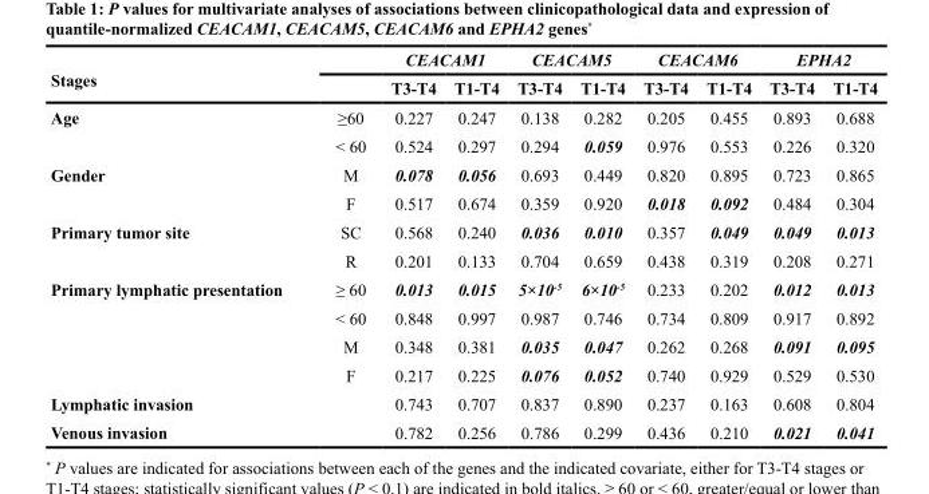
<table><thead><tr><td rowspan="2">Stages</td><td rowspan="2"></td><td colspan="2">CEACAM1</td><td colspan="2">CEACAM5</td><td colspan="2">CEACAM6</td><td colspan="2">EPHA2</td></tr><tr><td>T3-T4</td><td>T1-T4</td><td>T3-T4</td><td>T1-T4</td><td>T3-T4</td><td>T1-T4</td><td>T3-T4</td><td>T1-T4</td></tr></thead><tbody><tr><td rowspan="2">Age</td><td>≥60</td><td>0.227</td><td>0.247</td><td>0.138</td><td>0.282</td><td>0.205</td><td>0.455</td><td>0.893</td><td>0.688</td></tr><tr><td>&lt; 60</td><td>0.524</td><td>0.297</td><td>0.294</td><td>0.059</td><td>0.976</td><td>0.553</td><td>0.226</td><td>0.320</td></tr><tr><td rowspan="2">Gender</td><td>M</td><td>0.078</td><td>0.056</td><td>0.693</td><td>0.449</td><td>0.820</td><td>0.895</td><td>0.723</td><td>0.865</td></tr><tr><td>F</td><td>0.517</td><td>0.674</td><td>0.359</td><td>0.920</td><td>0.018</td><td>0.092</td><td>0.484</td><td>0.304</td></tr><tr><td rowspan="2">Primary tumor site</td><td>SC</td><td>0.568</td><td>0.240</td><td>0.036</td><td>0.010</td><td>0.357</td><td>0.049</td><td>0.049</td><td>0.013</td></tr><tr><td>R</td><td>0.201</td><td>0.133</td><td>0.704</td><td>0.659</td><td>0.438</td><td>0.319</td><td>0.208</td><td>0.271</td></tr><tr><td rowspan="4">Primary lymphatic presentation</td><td>≥ 60</td><td>0.013</td><td>0.015</td><td>5×10<sup>-5</sup></td><td>6×10<sup>-5</sup></td><td>0.233</td><td>0.202</td><td>0.012</td><td>0.013</td></tr><tr><td>&lt; 60</td><td>0.848</td><td>0.997</td><td>0.987</td><td>0.746</td><td>0.734</td><td>0.809</td><td>0.917</td><td>0.892</td></tr><tr><td>M</td><td>0.348</td><td>0.381</td><td>0.035</td><td>0.047</td><td>0.262</td><td>0.268</td><td>0.091</td><td>0.095</td></tr><tr><td>F</td><td>0.217</td><td>0.225</td><td>0.076</td><td>0.052</td><td>0.740</td><td>0.929</td><td>0.529</td><td>0.530</td></tr><tr><td>Lymphatic invasion</td><td></td><td>0.743</td><td>0.707</td><td>0.837</td><td>0.890</td><td>0.237</td><td>0.163</td><td>0.608</td><td>0.804</td></tr><tr><td>Venous invasion</td><td></td><td>0.782</td><td>0.256</td><td>0.786</td><td>0.299</td><td>0.436</td><td>0.210</td><td>0.021</td><td>0.041</td></tr></tbody></table>